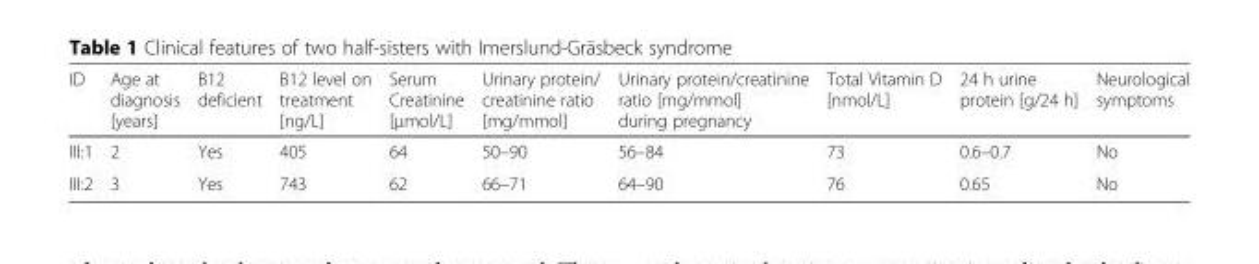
<table><thead><tr><td>ID</td><td>Age at diagnosis [years]</td><td>B12 deficient</td><td>B12 level on treatment [ng/L]</td><td>Serum Creatinine [μmol/L]</td><td>Urinary protein/ creatinine ratio [mg/mmol]</td><td>Urinary protein/creatinine ratio [mg/mmol] during pregnancy</td><td>Total Vitamin D [nmol/L]</td><td>24 h urine protein [g/24 h]</td><td>Neurological symptoms</td></tr></thead><tbody><tr><td>III:1</td><td>2</td><td>Yes</td><td>405</td><td>64</td><td>50–90</td><td>56–84</td><td>73</td><td>0.6–0.7</td><td>No</td></tr><tr><td>III:2</td><td>3</td><td>Yes</td><td>743</td><td>62</td><td>66–71</td><td>64–90</td><td>76</td><td>0.65</td><td>No</td></tr></tbody></table>